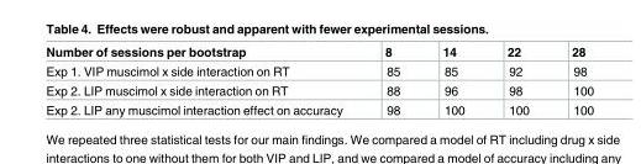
<table><thead><tr><td>Number of sessions per bootstrap</td><td>8</td><td>14</td><td>22</td><td>28</td></tr></thead><tbody><tr><td>Exp 1. VIP muscimol x side interaction on RT</td><td>85</td><td>85</td><td>92</td><td>98</td></tr><tr><td>Exp 2. LIP muscimol x side interaction on RT</td><td>88</td><td>96</td><td>98</td><td>100</td></tr><tr><td>Exp 2. LIP any muscimol interaction effect on accuracy</td><td>98</td><td>100</td><td>100</td><td>100</td></tr></tbody></table>